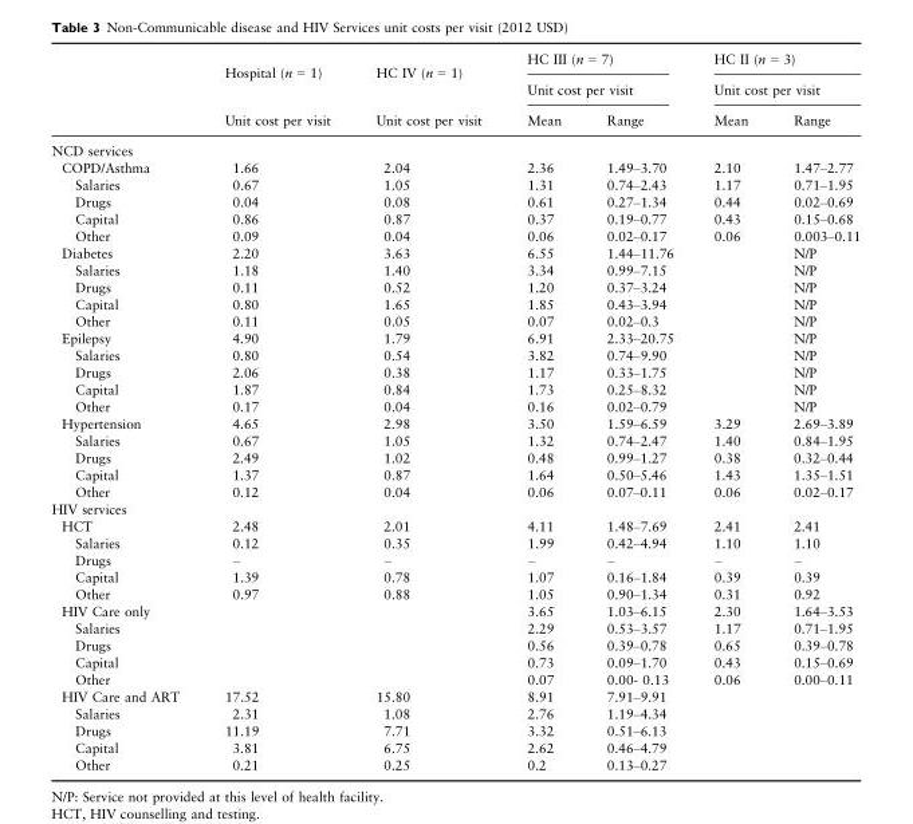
<table><thead><tr><td rowspan="3"></td><td rowspan="3">Hospital (n = 1) Unit cost per visit</td><td rowspan="3">HC IV (n = 1) Unit cost per visit</td><td rowspan="2" colspan="2">HC III (n = 7) Unit cost per visit</td><td rowspan="2" colspan="2">HC II (n = 3) Unit cost per visit</td></tr><tr></tr><tr><td>Mean</td><td>Range</td><td>Mean</td><td>Range</td></tr></thead><tbody><tr><td colspan="7">NCD services</td></tr><tr><td>COPD/Asthma</td><td>1.66</td><td>2.04</td><td>2.36</td><td>1.49–3.70</td><td>2.10</td><td>1.47–2.77</td></tr><tr><td>Salaries</td><td>0.67</td><td>1.05</td><td>1.31</td><td>0.74–2.43</td><td>1.17</td><td>0.71–1.95</td></tr><tr><td>Drugs</td><td>0.04</td><td>0.08</td><td>0.61</td><td>0.27–1.34</td><td>0.44</td><td>0.02–0.69</td></tr><tr><td>Capital</td><td>0.86</td><td>0.87</td><td>0.37</td><td>0.19–0.77</td><td>0.43</td><td>0.15–0.68</td></tr><tr><td>Other</td><td>0.09</td><td>0.04</td><td>0.06</td><td>0.02–0.17</td><td>0.06</td><td>0.003–0.11</td></tr><tr><td>Diabetes</td><td>2.20</td><td>3.63</td><td>6.55</td><td colspan="2">1.44–11.76</td><td>N/P</td></tr><tr><td>Salaries</td><td>1.18</td><td>1.40</td><td>3.34</td><td>0.99–7.15</td><td></td><td>N/P</td></tr><tr><td>Drugs</td><td>0.11</td><td>0.52</td><td>1.20</td><td>0.37–3.24</td><td></td><td>N/P</td></tr><tr><td>Capital</td><td>0.80</td><td>1.65</td><td>1.85</td><td>0.43–3.94</td><td></td><td>N/P</td></tr><tr><td>Other</td><td>0.11</td><td>0.05</td><td>0.07</td><td>0.02–0.3</td><td></td><td>N/P</td></tr><tr><td>Epilepsy</td><td>4.90</td><td>1.79</td><td>6.91</td><td colspan="2">2.33–20.75</td><td>N/P</td></tr><tr><td>Salaries</td><td>0.80</td><td>0.54</td><td>3.82</td><td>0.74–9.90</td><td></td><td>N/P</td></tr><tr><td>Drugs</td><td>2.06</td><td>0.38</td><td>1.17</td><td>0.33–1.75</td><td></td><td>N/P</td></tr><tr><td>Capital</td><td>1.87</td><td>0.84</td><td>1.73</td><td>0.25–8.32</td><td></td><td>N/P</td></tr><tr><td>Other</td><td>0.17</td><td>0.04</td><td>0.16</td><td>0.02–0.79</td><td></td><td>N/P</td></tr><tr><td>Hypertension</td><td>4.65</td><td>2.98</td><td>3.50</td><td>1.59–6.59</td><td>3.29</td><td>2.69–3.89</td></tr><tr><td>Salaries</td><td>0.67</td><td>1.05</td><td>1.32</td><td>0.74–2.47</td><td>1.40</td><td>0.84–1.95</td></tr><tr><td>Drugs</td><td>2.49</td><td>1.02</td><td>0.48</td><td>0.99–1.27</td><td>0.38</td><td>0.32–0.44</td></tr><tr><td>Capital</td><td>1.37</td><td>0.87</td><td>1.64</td><td>0.50–5.46</td><td>1.43</td><td>1.35–1.51</td></tr><tr><td>Other</td><td>0.12</td><td>0.04</td><td>0.06</td><td>0.07–0.11</td><td>0.06</td><td>0.02–0.17</td></tr><tr><td colspan="7">HIV services</td></tr><tr><td>HCT</td><td>2.48</td><td>2.01</td><td>4.11</td><td>1.48–7.69</td><td>2.41</td><td>2.41</td></tr><tr><td>Salaries</td><td>0.12</td><td>0.35</td><td>1.99</td><td>0.42–4.94</td><td>1.10</td><td>1.10</td></tr><tr><td>Drugs</td><td>–</td><td>–</td><td>–</td><td>–</td><td>–</td><td>–</td></tr><tr><td>Capital</td><td>1.39</td><td>0.78</td><td>1.07</td><td>0.16–1.84</td><td>0.39</td><td>0.39</td></tr><tr><td>Other</td><td>0.97</td><td>0.88</td><td>1.05</td><td>0.90–1.34</td><td>0.31</td><td>0.92</td></tr><tr><td>HIV Care only</td><td></td><td></td><td>3.65</td><td>1.03–6.15</td><td>2.30</td><td>1.64–3.53</td></tr><tr><td>Salaries</td><td></td><td></td><td>2.29</td><td>0.53–3.57</td><td>1.17</td><td>0.71–1.95</td></tr><tr><td>Drugs</td><td></td><td></td><td>0.56</td><td>0.39–0.78</td><td>0.65</td><td>0.39–0.78</td></tr><tr><td>Capital</td><td></td><td></td><td>0.73</td><td>0.09–1.70</td><td>0.43</td><td>0.15–0.69</td></tr><tr><td>Other</td><td></td><td></td><td>0.07</td><td>0.00- 0.13</td><td>0.06</td><td>0.00–0.11</td></tr><tr><td>HIV Care and ART</td><td>17.52</td><td>15.80</td><td>8.91</td><td>7.91–9.91</td><td></td><td></td></tr><tr><td>Salaries</td><td>2.31</td><td>1.08</td><td>2.76</td><td>1.19–4.34</td><td></td><td></td></tr><tr><td>Drugs</td><td>11.19</td><td>7.71</td><td>3.32</td><td>0.51–6.13</td><td></td><td></td></tr><tr><td>Capital</td><td>3.81</td><td>6.75</td><td>2.62</td><td>0.46–4.79</td><td></td><td></td></tr><tr><td>Other</td><td>0.21</td><td>0.25</td><td>0.2</td><td>0.13–0.27</td><td></td><td></td></tr></tbody></table>